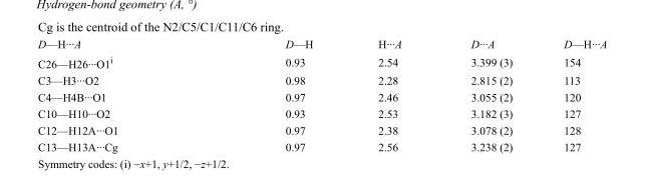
<table><tbody><tr><td>D—H···A</td><td>D—H</td><td>H···A</td><td>D···A</td><td>D—H···A</td></tr><tr><td>C26—H26···O1<sup>i</sup></td><td>0.93</td><td>2.54</td><td>3.399 (3)</td><td>154</td></tr><tr><td>C3—H3···O2</td><td>0.98</td><td>2.28</td><td>2.815 (2)</td><td>113</td></tr><tr><td>C4—H4B···O1</td><td>0.97</td><td>2.46</td><td>3.055 (2)</td><td>120</td></tr><tr><td>C10—H10···O2</td><td>0.93</td><td>2.53</td><td>3.182 (3)</td><td>127</td></tr><tr><td>C12—H12A···O1</td><td>0.97</td><td>2.38</td><td>3.078 (2)</td><td>128</td></tr><tr><td>C13—H13A···Cg</td><td>0.97</td><td>2.56</td><td>3.238 (2)</td><td>127</td></tr></tbody></table>